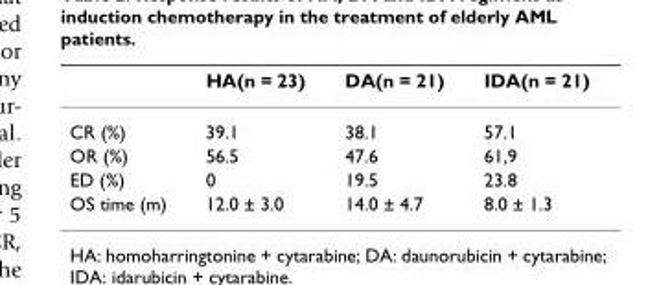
<table><thead><tr><td></td><td>HA(n = 23)</td><td>DA(n = 21)</td><td>IDA(n = 21)</td></tr></thead><tbody><tr><td>CR (%)</td><td>39.1</td><td>38.1</td><td>57.1</td></tr><tr><td>OR (%)</td><td>56.5</td><td>47.6</td><td>61,9</td></tr><tr><td>ED (%)</td><td>0</td><td>19.5</td><td>23.8</td></tr><tr><td>OS time (m)</td><td>12.0 ± 3.0</td><td>14.0 ± 4.7</td><td>8.0 ± 1.3</td></tr></tbody></table>